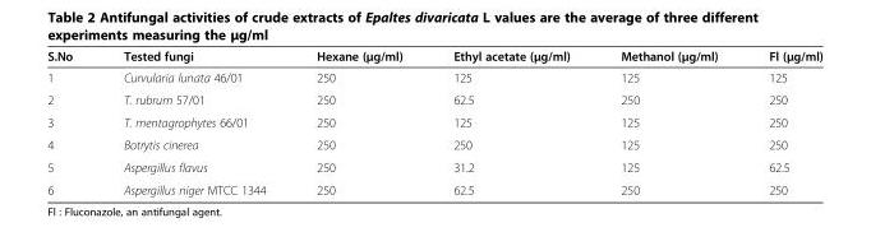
<table><thead><tr><td>S.No</td><td>Tested fungi</td><td>Hexane (μg/ml)</td><td>Ethyl acetate (μg/ml)</td><td>Methanol (μg/ml)</td><td>Fl (μg/ml)</td></tr></thead><tbody><tr><td>1</td><td>Curvularia lunata 46/01</td><td>250</td><td>125</td><td>125</td><td>125</td></tr><tr><td>2</td><td>T. rubrum 57/01</td><td>250</td><td>62.5</td><td>250</td><td>250</td></tr><tr><td>3</td><td>T. mentagrophytes 66/01</td><td>250</td><td>125</td><td>125</td><td>250</td></tr><tr><td>4</td><td>Botrytis cinerea</td><td>250</td><td>250</td><td>125</td><td>250</td></tr><tr><td>5</td><td>Aspergillus flavus</td><td>250</td><td>31.2</td><td>125</td><td>62.5</td></tr><tr><td>6</td><td>Aspergillus niger MTCC 1344</td><td>250</td><td>62.5</td><td>250</td><td>250</td></tr></tbody></table>